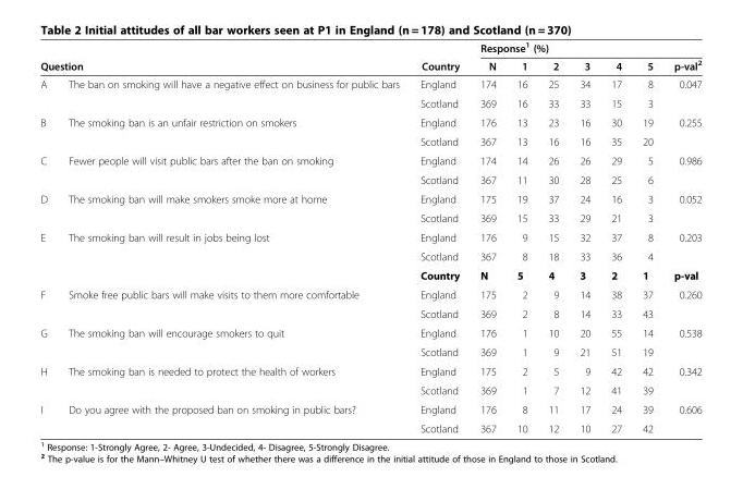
<table><thead><tr><td></td><td></td><td rowspan="2">Country</td><td colspan="6">Response<sup>1</sup> (%)</td><td rowspan="2">p-val<sup>2</sup></td></tr><tr><td colspan="2">Question</td><td>N</td><td>1</td><td>2</td><td>3</td><td>4</td><td>5</td></tr></thead><tbody><tr><td rowspan="2">A</td><td>The ban on smoking will have a negative effect on business for public bars</td><td>England</td><td>174</td><td>16</td><td>25</td><td>34</td><td>17</td><td>8</td><td>0.047</td></tr><tr><td></td><td>Scotland</td><td>369</td><td>16</td><td>33</td><td>33</td><td>15</td><td>3</td><td></td></tr><tr><td rowspan="2">B</td><td>The smoking ban is an unfair restriction on smokers</td><td>England</td><td>176</td><td>13</td><td>23</td><td>16</td><td>30</td><td>19</td><td>0.255</td></tr><tr><td></td><td>Scotland</td><td>367</td><td>13</td><td>16</td><td>16</td><td>35</td><td>20</td><td></td></tr><tr><td rowspan="2">C</td><td>Fewer people will visit public bars after the ban on smoking</td><td>England</td><td>174</td><td>14</td><td>26</td><td>26</td><td>29</td><td>5</td><td>0.986</td></tr><tr><td></td><td>Scotland</td><td>367</td><td>11</td><td>30</td><td>28</td><td>25</td><td>6</td><td></td></tr><tr><td rowspan="2">D</td><td>The smoking ban will make smokers smoke more at home</td><td>England</td><td>175</td><td>19</td><td>37</td><td>24</td><td>16</td><td>3</td><td>0.052</td></tr><tr><td></td><td>Scotland</td><td>369</td><td>15</td><td>33</td><td>29</td><td>21</td><td>3</td><td></td></tr><tr><td rowspan="3">E</td><td>The smoking ban will result in jobs being lost</td><td>England</td><td>176</td><td>9</td><td>15</td><td>32</td><td>37</td><td>8</td><td>0.203</td></tr><tr><td></td><td>Scotland</td><td>367</td><td>8</td><td>18</td><td>33</td><td>36</td><td>4</td><td></td></tr><tr><td></td><td>Country</td><td>N</td><td>5</td><td>4</td><td>3</td><td>2</td><td>1</td><td>p-val</td></tr><tr><td rowspan="2">F</td><td>Smoke free public bars will make visits to them more comfortable</td><td>England</td><td>175</td><td>2</td><td>9</td><td>14</td><td>38</td><td>37</td><td>0.260</td></tr><tr><td></td><td>Scotland</td><td>369</td><td>2</td><td>8</td><td>14</td><td>33</td><td>43</td><td></td></tr><tr><td rowspan="2">G</td><td>The smoking ban will encourage smokers to quit</td><td>England</td><td>176</td><td>1</td><td>10</td><td>20</td><td>55</td><td>14</td><td>0.538</td></tr><tr><td></td><td>Scotland</td><td>369</td><td>1</td><td>9</td><td>21</td><td>51</td><td>19</td><td></td></tr><tr><td rowspan="2">H</td><td>The smoking ban is needed to protect the health of workers</td><td>England</td><td>175</td><td>2</td><td>5</td><td>9</td><td>42</td><td>42</td><td>0.342</td></tr><tr><td></td><td>Scotland</td><td>369</td><td>1</td><td>7</td><td>12</td><td>41</td><td>39</td><td></td></tr><tr><td rowspan="2">I</td><td>Do you agree with the proposed ban on smoking in public bars?</td><td>England</td><td>176</td><td>8</td><td>11</td><td>17</td><td>24</td><td>39</td><td>0.606</td></tr><tr><td></td><td>Scotland</td><td>367</td><td>10</td><td>12</td><td>10</td><td>27</td><td>42</td><td></td></tr></tbody></table>